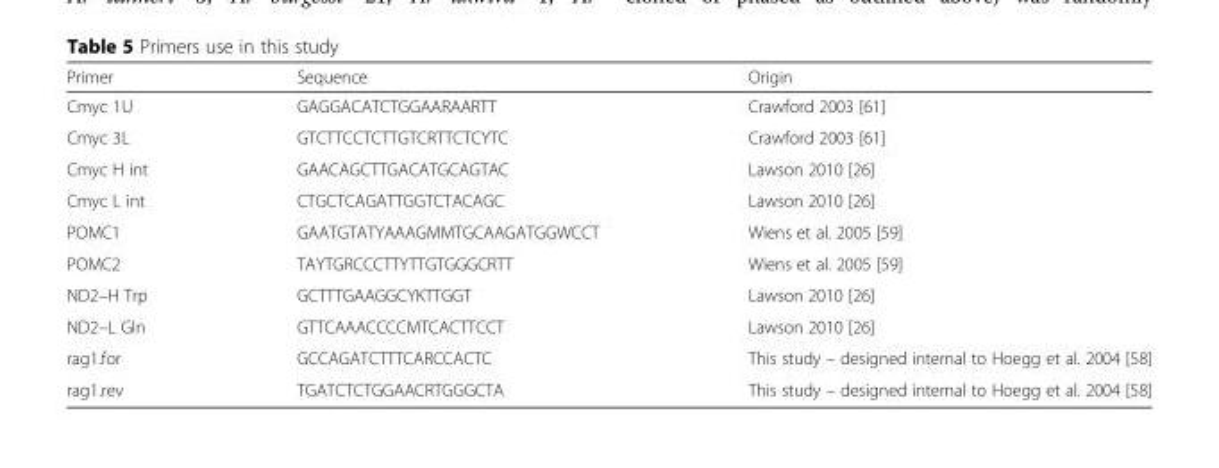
<table><thead><tr><td>Primer</td><td>Sequence</td><td>Origin</td></tr></thead><tbody><tr><td>Cmyc 1U</td><td>GAGGACATCTGGAARAARTT</td><td>Crawford 2003 [61]</td></tr><tr><td>Cmyc 3L</td><td>GTCTTCCTCTTGTCRTTCTCYTC</td><td>Crawford 2003 [61]</td></tr><tr><td>Cmyc H int</td><td>GAACAGCTTGACATGCAGTAC</td><td>Lawson 2010 [26]</td></tr><tr><td>Cmyc L int</td><td>CTGCTCAGATTGGTCTACAGC</td><td>Lawson 2010 [26]</td></tr><tr><td>POMC1</td><td>GAATGTATYAAAGMMTGCAAGATGGWCCT</td><td>Wiens et al. 2005 [59]</td></tr><tr><td>POMC2</td><td>TAYTGRCCCTTYTTGTGGGCRTT</td><td>Wiens et al. 2005 [59]</td></tr><tr><td>ND2–H Trp</td><td>GCTTTGAAGGCYKTTGGT</td><td>Lawson 2010 [26]</td></tr><tr><td>ND2–L Gln</td><td>GTTCAAACCCCMTCACTTCCT</td><td>Lawson 2010 [26]</td></tr><tr><td>rag1.for</td><td>GCCAGATCTTTCARCCACTC</td><td>This study – designed internal to Hoegg et al. 2004 [58]</td></tr><tr><td>rag1.rev</td><td>TGATCTCTGGAACRTGGGCTA</td><td>This study – designed internal to Hoegg et al. 2004 [58]</td></tr></tbody></table>